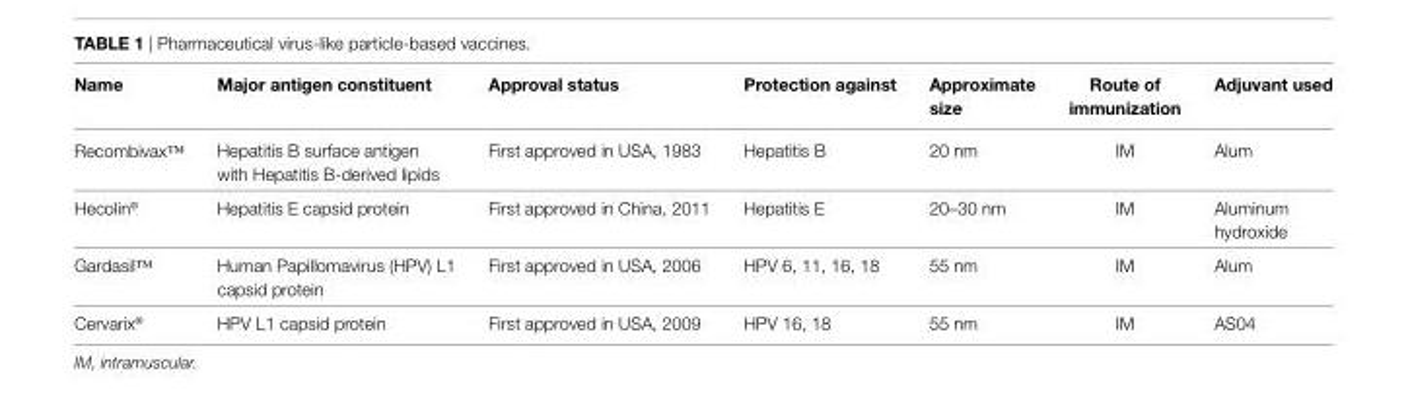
<table><thead><tr><td>Name</td><td>Major antigen constituent</td><td>Approval status</td><td>Protection against</td><td>Approximate size</td><td>Route of immunization</td><td>Adjuvant used</td></tr></thead><tbody><tr><td>Recombivax™</td><td>Hepatitis B surface antigen with Hepatitis B-derived lipids</td><td>First approved in USA, 1983</td><td>Hepatitis B</td><td>20 nm</td><td>IM</td><td>Alum</td></tr><tr><td>Hecolin<sup>®</sup></td><td>Hepatitis E capsid protein</td><td>First approved in China, 2011</td><td>Hepatitis E</td><td>20–30 nm</td><td>IM</td><td>Aluminum hydroxide</td></tr><tr><td>Gardasil™</td><td>Human Papillomavirus (HPV) L1 capsid protein</td><td>First approved in USA, 2006</td><td>HPV 6, 11, 16, 18</td><td>55 nm</td><td>IM</td><td>Alum</td></tr><tr><td>Cervarix<sup>®</sup></td><td>HPV L1 capsid protein</td><td>First approved in USA, 2009</td><td>HPV 16, 18</td><td>55 nm</td><td>IM</td><td>AS04</td></tr></tbody></table>